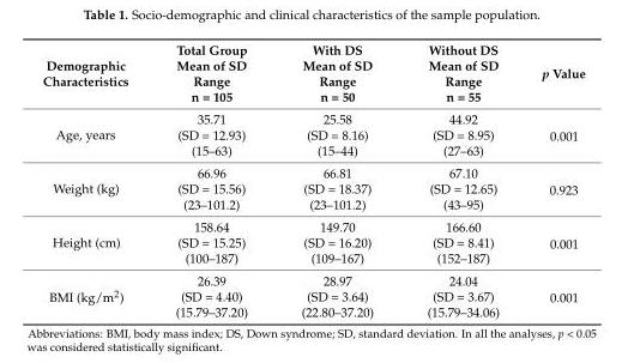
<table><thead><tr><td>Demographic Characteristics</td><td>Total Group Mean of SD Range n = 105</td><td>With DS Mean of SD Range n = 50</td><td>Without DS Mean of SD Range n = 55</td><td>p Value</td></tr></thead><tbody><tr><td rowspan="3">Age, years</td><td>35.71</td><td>25.58</td><td>44.92</td><td rowspan="3">0.001</td></tr><tr><td>(SD = 12.93)</td><td>(SD = 8.16)</td><td>(SD = 8.95)</td></tr><tr><td>(15–63)</td><td>(15–44)</td><td>(27–63)</td></tr><tr><td rowspan="3">Weight (kg)</td><td>66.96</td><td>66.81</td><td>67.10</td><td rowspan="3">0.923</td></tr><tr><td>(SD = 15.56)</td><td>(SD = 18.37)</td><td>(SD = 12.65)</td></tr><tr><td>(23–101.2)</td><td>(23–101.2)</td><td>(43–95)</td></tr><tr><td rowspan="3">Height (cm)</td><td>158.64</td><td>149.70</td><td>166.60</td><td rowspan="3">0.001</td></tr><tr><td>(SD = 15.25)</td><td>(SD = 16.20)</td><td>(SD = 8.41)</td></tr><tr><td>(100–187)</td><td>(109–167)</td><td>(152–187)</td></tr><tr><td rowspan="3">BMI (kg/m<sup>2</sup>)</td><td>26.39</td><td>28.97</td><td>24.04</td><td rowspan="3">0.001</td></tr><tr><td>(SD = 4.40)</td><td>(SD = 3.64)</td><td>(SD = 3.67)</td></tr><tr><td>(15.79–37.20)</td><td>(22.80–37.20)</td><td>(15.79–34.06)</td></tr></tbody></table>